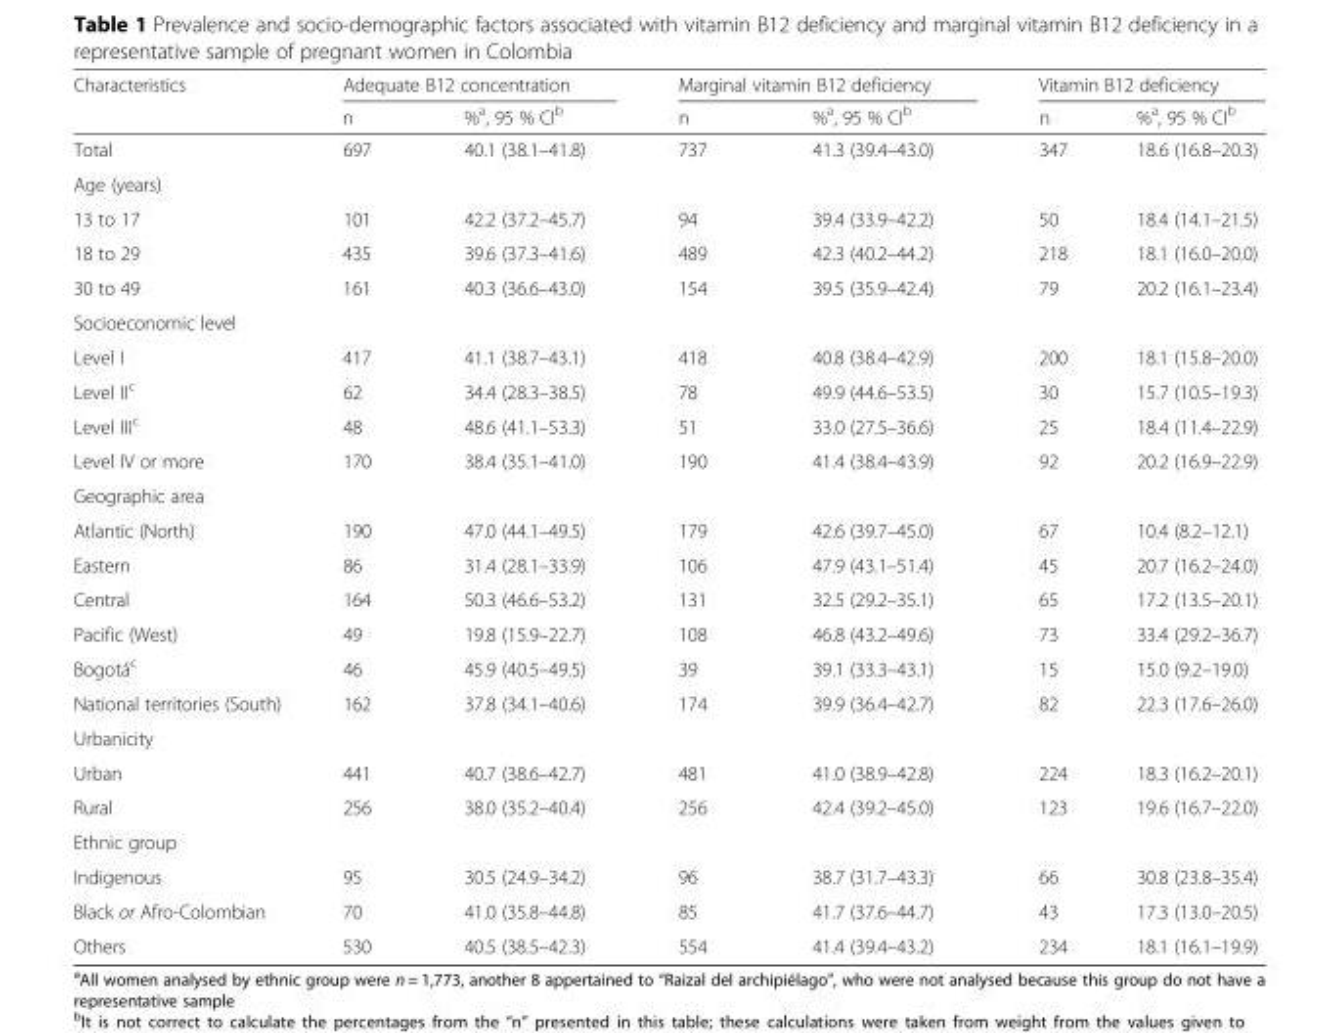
<table><thead><tr><td rowspan="2">Characteristics</td><td colspan="2">Adequate B12 concentration</td><td colspan="2">Marginal vitamin B12 deficiency</td><td colspan="2">Vitamin B12 deficiency</td></tr><tr><td>n</td><td>%<sup>a</sup>, 95 % CI<sup>b</sup></td><td>n</td><td>%<sup>a</sup>, 95 % CI<sup>b</sup></td><td>n</td><td>%<sup>a</sup>, 95 % CI<sup>b</sup></td></tr></thead><tbody><tr><td>Total</td><td>697</td><td>40.1 (38.1–41.8)</td><td>737</td><td>41.3 (39.4–43.0)</td><td>347</td><td>18.6 (16.8–20.3)</td></tr><tr><td colspan="7">Age (years)</td></tr><tr><td>13 to 17</td><td>101</td><td>42.2 (37.2–45.7)</td><td>94</td><td>39.4 (33.9–42.2)</td><td>50</td><td>18.4 (14.1–21.5)</td></tr><tr><td>18 to 29</td><td>435</td><td>39.6 (37.3–41.6)</td><td>489</td><td>42.3 (40.2–44.2)</td><td>218</td><td>18.1 (16.0–20.0)</td></tr><tr><td>30 to 49</td><td>161</td><td>40.3 (36.6–43.0)</td><td>154</td><td>39.5 (35.9–42.4)</td><td>79</td><td>20.2 (16.1–23.4)</td></tr><tr><td colspan="7">Socioeconomic level</td></tr><tr><td>Level I</td><td>417</td><td>41.1 (38.7–43.1)</td><td>418</td><td>40.8 (38.4–42.9)</td><td>200</td><td>18.1 (15.8–20.0)</td></tr><tr><td>Level II<sup>c</sup></td><td>62</td><td>34.4 (28.3–38.5)</td><td>78</td><td>49.9 (44.6–53.5)</td><td>30</td><td>15.7 (10.5–19.3)</td></tr><tr><td>Level III<sup>c</sup></td><td>48</td><td>48.6 (41.1–53.3)</td><td>51</td><td>33.0 (27.5–36.6)</td><td>25</td><td>18.4 (11.4–22.9)</td></tr><tr><td>Level IV or more</td><td>170</td><td>38.4 (35.1–41.0)</td><td>190</td><td>41.4 (38.4–43.9)</td><td>92</td><td>20.2 (16.9–22.9)</td></tr><tr><td colspan="7">Geographic area</td></tr><tr><td>Atlantic (North)</td><td>190</td><td>47.0 (44.1–49.5)</td><td>179</td><td>42.6 (39.7–45.0)</td><td>67</td><td>10.4 (8.2–12.1)</td></tr><tr><td>Eastern</td><td>86</td><td>31.4 (28.1–33.9)</td><td>106</td><td>47.9 (43.1–51.4)</td><td>45</td><td>20.7 (16.2–24.0)</td></tr><tr><td>Central</td><td>164</td><td>50.3 (46.6–53.2)</td><td>131</td><td>32.5 (29.2–35.1)</td><td>65</td><td>17.2 (13.5–20.1)</td></tr><tr><td>Pacific (West)</td><td>49</td><td>19.8 (15.9–22.7)</td><td>108</td><td>46.8 (43.2–49.6)</td><td>73</td><td>33.4 (29.2–36.7)</td></tr><tr><td>Bogotá<sup>c</sup></td><td>46</td><td>45.9 (40.5–49.5)</td><td>39</td><td>39.1 (33.3–43.1)</td><td>15</td><td>15.0 (9.2–19.0)</td></tr><tr><td>National territories (South)</td><td>162</td><td>37.8 (34.1–40.6)</td><td>174</td><td>39.9 (36.4–42.7)</td><td>82</td><td>22.3 (17.6–26.0)</td></tr><tr><td colspan="7">Urbanicity</td></tr><tr><td>Urban</td><td>441</td><td>40.7 (38.6–42.7)</td><td>481</td><td>41.0 (38.9–42.8)</td><td>224</td><td>18.3 (16.2–20.1)</td></tr><tr><td>Rural</td><td>256</td><td>38.0 (35.2–40.4)</td><td>256</td><td>42.4 (39.2–45.0)</td><td>123</td><td>19.6 (16.7–22.0)</td></tr><tr><td colspan="7">Ethnic group</td></tr><tr><td>Indigenous</td><td>95</td><td>30.5 (24.9–34.2)</td><td>96</td><td>38.7 (31.7–43.3)</td><td>66</td><td>30.8 (23.8–35.4)</td></tr><tr><td>Black or Afro-Colombian</td><td>70</td><td>41.0 (35.8–44.8)</td><td>85</td><td>41.7 (37.6–44.7)</td><td>43</td><td>17.3 (13.0–20.5)</td></tr><tr><td>Others</td><td>530</td><td>40.5 (38.5–42.3)</td><td>554</td><td>41.4 (39.4–43.2)</td><td>234</td><td>18.1 (16.1–19.9)</td></tr></tbody></table>